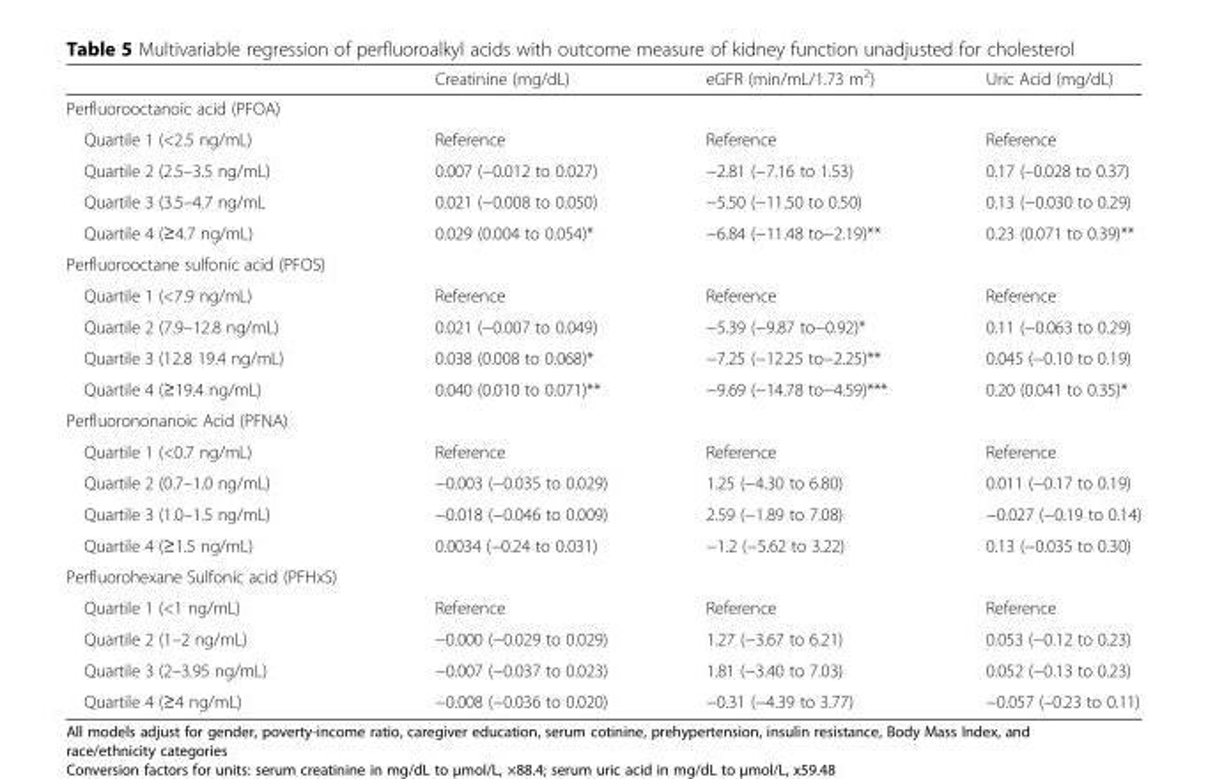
<table><thead><tr><td></td><td>Creatinine (mg/dL)</td><td>eGFR (min/mL/1.73 m<sup>2</sup>)</td><td>Uric Acid (mg/dL)</td></tr></thead><tbody><tr><td colspan="4">Perfluorooctanoic acid (PFOA)</td></tr><tr><td>Quartile 1 (&lt;2.5 ng/mL)</td><td>Reference</td><td>Reference</td><td>Reference</td></tr><tr><td>Quartile 2 (2.5–3.5 ng/mL)</td><td>0.007 (−0.012 to 0.027)</td><td>−2.81 (−7.16 to 1.53)</td><td>0.17 (–0.028 to 0.37)</td></tr><tr><td>Quartile 3 (3.5–4.7 ng/mL</td><td>0.021 (−0.008 to 0.050)</td><td>−5.50 (−11.50 to 0.50)</td><td>0.13 (−0.030 to 0.29)</td></tr><tr><td>Quartile 4 (≥4.7 ng/mL)</td><td>0.029 (0.004 to 0.054)*</td><td>−6.84 (−11.48 to−2.19)**</td><td>0.23 (0.071 to 0.39)**</td></tr><tr><td colspan="4">Perfluorooctane sulfonic acid (PFOS)</td></tr><tr><td>Quartile 1 (&lt;7.9 ng/mL)</td><td>Reference</td><td>Reference</td><td>Reference</td></tr><tr><td>Quartile 2 (7.9–12.8 ng/mL)</td><td>0.021 (−0.007 to 0.049)</td><td>−5.39 (−9.87 to−0.92)*</td><td>0.11 (−0.063 to 0.29)</td></tr><tr><td>Quartile 3 (12.8 19.4 ng/mL)</td><td>0.038 (0.008 to 0.068)*</td><td>−7.25 (−12.25 to−2.25)**</td><td>0.045 (−0.10 to 0.19)</td></tr><tr><td>Quartile 4 (≥19.4 ng/mL)</td><td>0.040 (0.010 to 0.071)**</td><td>−9.69 (−14.78 to−4.59)***</td><td>0.20 (0.041 to 0.35)*</td></tr><tr><td colspan="4">Perfluorononanoic Acid (PFNA)</td></tr><tr><td>Quartile 1 (&lt;0.7 ng/mL)</td><td>Reference</td><td>Reference</td><td>Reference</td></tr><tr><td>Quartile 2 (0.7–1.0 ng/mL)</td><td>−0.003 (−0.035 to 0.029)</td><td>1.25 (−4.30 to 6.80)</td><td>0.011 (−0.17 to 0.19)</td></tr><tr><td>Quartile 3 (1.0–1.5 ng/mL)</td><td>−0.018 (−0.046 to 0.009)</td><td>2.59 (−1.89 to 7.08)</td><td>−0.027 (−0.19 to 0.14)</td></tr><tr><td>Quartile 4 (≥1.5 ng/mL)</td><td>0.0034 (−0.24 to 0.031)</td><td>−1.2 (−5.62 to 3.22)</td><td>0.13 (−0.035 to 0.30)</td></tr><tr><td colspan="4">Perfluorohexane Sulfonic acid (PFHxS)</td></tr><tr><td>Quartile 1 (&lt;1 ng/mL)</td><td>Reference</td><td>Reference</td><td>Reference</td></tr><tr><td>Quartile 2 (1–2 ng/mL)</td><td>−0.000 (−0.029 to 0.029)</td><td>1.27 (−3.67 to 6.21)</td><td>0.053 (−0.12 to 0.23)</td></tr><tr><td>Quartile 3 (2–3.95 ng/mL)</td><td>−0.007 (−0.037 to 0.023)</td><td>1.81 (−3.40 to 7.03)</td><td>0.052 (−0.13 to 0.23)</td></tr><tr><td>Quartile 4 (≥4 ng/mL)</td><td>−0.008 (−0.036 to 0.020)</td><td>−0.31 (−4.39 to 3.77)</td><td>−0.057 (–0.23 to 0.11)</td></tr></tbody></table>